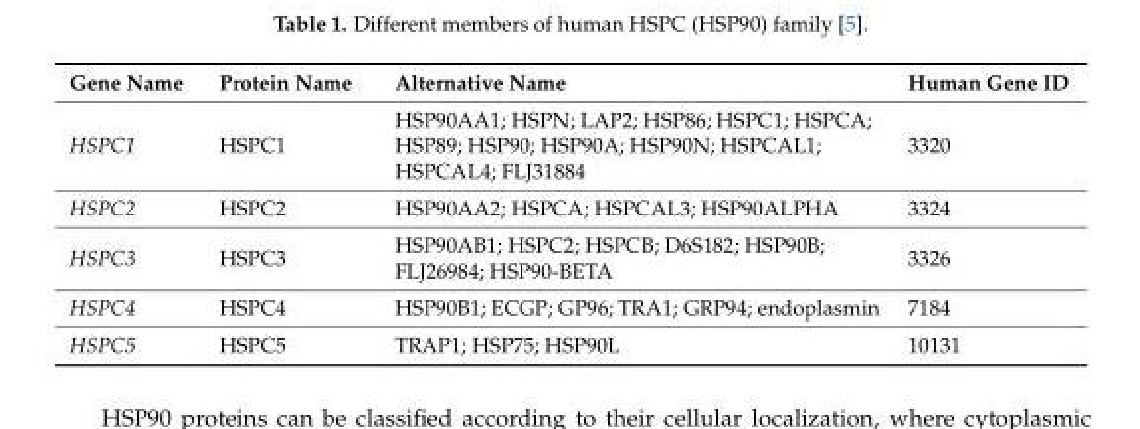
<table><thead><tr><td>Gene Name</td><td>Protein Name</td><td>Alternative Name</td><td>Human Gene ID</td></tr></thead><tbody><tr><td>HSPC1</td><td>HSPC1</td><td>HSP90AA1; HSPN; LAP2; HSP86; HSPC1; HSPCA; HSP89; HSP90; HSP90A; HSP90N; HSPCAL1; HSPCAL4; FLJ31884</td><td>3320</td></tr><tr><td>HSPC2</td><td>HSPC2</td><td>HSP90AA2; HSPCA; HSPCAL3; HSP90ALPHA</td><td>3324</td></tr><tr><td>HSPC3</td><td>HSPC3</td><td>HSP90AB1; HSPC2; HSPCB; D6S182; HSP90B; FLJ26984; HSP90-BETA</td><td>3326</td></tr><tr><td>HSPC4</td><td>HSPC4</td><td>HSP90B1; ECGP; GP96; TRA1; GRP94; endoplasmin</td><td>7184</td></tr><tr><td>HSPC5</td><td>HSPC5</td><td>TRAP1; HSP75; HSP90L</td><td>10131</td></tr></tbody></table>